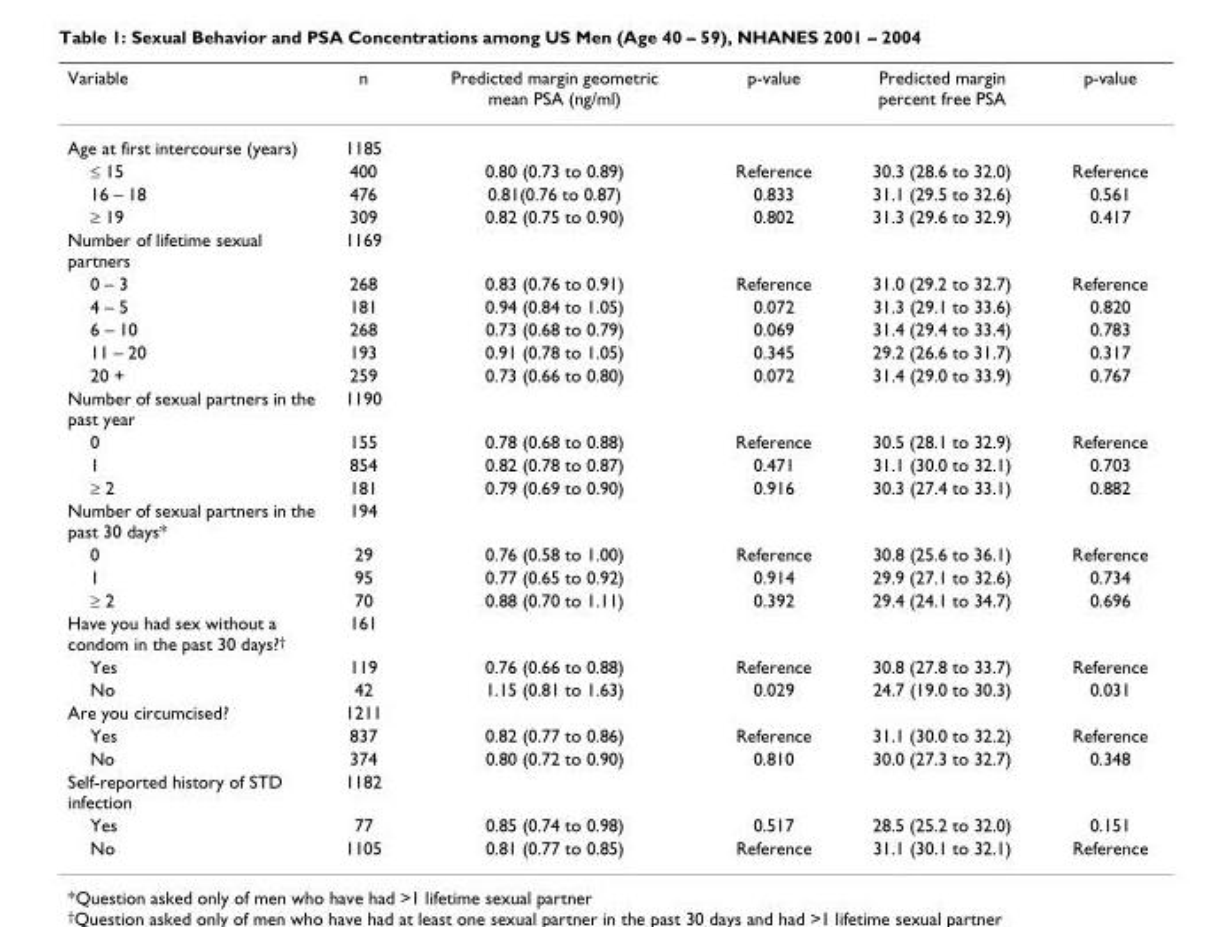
<table><thead><tr><td>Variable</td><td>n</td><td>Predicted margin geometric mean PSA (ng/ml)</td><td>p-value</td><td>Predicted margin percent free PSA</td><td>p-value</td></tr></thead><tbody><tr><td>Age at first intercourse (years)</td><td>1185</td><td></td><td></td><td></td><td></td></tr><tr><td>≤ 15</td><td>400</td><td>0.80 (0.73 to 0.89)</td><td>Reference</td><td>30.3 (28.6 to 32.0)</td><td>Reference</td></tr><tr><td>16 – 18</td><td>476</td><td>0.81(0.76 to 0.87)</td><td>0.833</td><td>31.1 (29.5 to 32.6)</td><td>0.561</td></tr><tr><td>≥ 19</td><td>309</td><td>0.82 (0.75 to 0.90)</td><td>0.802</td><td>31.3 (29.6 to 32.9)</td><td>0.417</td></tr><tr><td>Number of lifetime sexual partners</td><td>1169</td><td></td><td></td><td></td><td></td></tr><tr><td>0 – 3</td><td>268</td><td>0.83 (0.76 to 0.91)</td><td>Reference</td><td>31.0 (29.2 to 32.7)</td><td>Reference</td></tr><tr><td>4 – 5</td><td>181</td><td>0.94 (0.84 to 1.05)</td><td>0.072</td><td>31.3 (29.1 to 33.6)</td><td>0.820</td></tr><tr><td>6 – 10</td><td>268</td><td>0.73 (0.68 to 0.79)</td><td>0.069</td><td>31.4 (29.4 to 33.4)</td><td>0.783</td></tr><tr><td>11 – 20</td><td>193</td><td>0.91 (0.78 to 1.05)</td><td>0.345</td><td>29.2 (26.6 to 31.7)</td><td>0.317</td></tr><tr><td>20 +</td><td>259</td><td>0.73 (0.66 to 0.80)</td><td>0.072</td><td>31.4 (29.0 to 33.9)</td><td>0.767</td></tr><tr><td>Number of sexual partners in the past year</td><td>1190</td><td></td><td></td><td></td><td></td></tr><tr><td>0</td><td>155</td><td>0.78 (0.68 to 0.88)</td><td>Reference</td><td>30.5 (28.1 to 32.9)</td><td>Reference</td></tr><tr><td>1</td><td>854</td><td>0.82 (0.78 to 0.87)</td><td>0.471</td><td>31.1 (30.0 to 32.1)</td><td>0.703</td></tr><tr><td>≥ 2</td><td>181</td><td>0.79 (0.69 to 0.90)</td><td>0.916</td><td>30.3 (27.4 to 33.1)</td><td>0.882</td></tr><tr><td>Number of sexual partners in the past 30 days*</td><td>194</td><td></td><td></td><td></td><td></td></tr><tr><td>0</td><td>29</td><td>0.76 (0.58 to 1.00)</td><td>Reference</td><td>30.8 (25.6 to 36.1)</td><td>Reference</td></tr><tr><td>1</td><td>95</td><td>0.77 (0.65 to 0.92)</td><td>0.914</td><td>29.9 (27.1 to 32.6)</td><td>0.734</td></tr><tr><td>≥ 2</td><td>70</td><td>0.88 (0.70 to 1.11)</td><td>0.392</td><td>29.4 (24.1 to 34.7)</td><td>0.696</td></tr><tr><td>Have you had sex without a condom in the past 30 days?<sup>†</sup></td><td>161</td><td></td><td></td><td></td><td></td></tr><tr><td>Yes</td><td>119</td><td>0.76 (0.66 to 0.88)</td><td>Reference</td><td>30.8 (27.8 to 33.7)</td><td>Reference</td></tr><tr><td>No</td><td>42</td><td>1.15 (0.81 to 1.63)</td><td>0.029</td><td>24.7 (19.0 to 30.3)</td><td>0.031</td></tr><tr><td>Are you circumcised?</td><td>1211</td><td></td><td></td><td></td><td></td></tr><tr><td>Yes</td><td>837</td><td>0.82 (0.77 to 0.86)</td><td>Reference</td><td>31.1 (30.0 to 32.2)</td><td>Reference</td></tr><tr><td>No</td><td>374</td><td>0.80 (0.72 to 0.90)</td><td>0.810</td><td>30.0 (27.3 to 32.7)</td><td>0.348</td></tr><tr><td>Self-reported history of STD infection</td><td>1182</td><td></td><td></td><td></td><td></td></tr><tr><td>Yes</td><td>77</td><td>0.85 (0.74 to 0.98)</td><td>0.517</td><td>28.5 (25.2 to 32.0)</td><td>0.151</td></tr><tr><td>No</td><td>1105</td><td>0.81 (0.77 to 0.85)</td><td>Reference</td><td>31.1 (30.1 to 32.1)</td><td>Reference</td></tr></tbody></table>